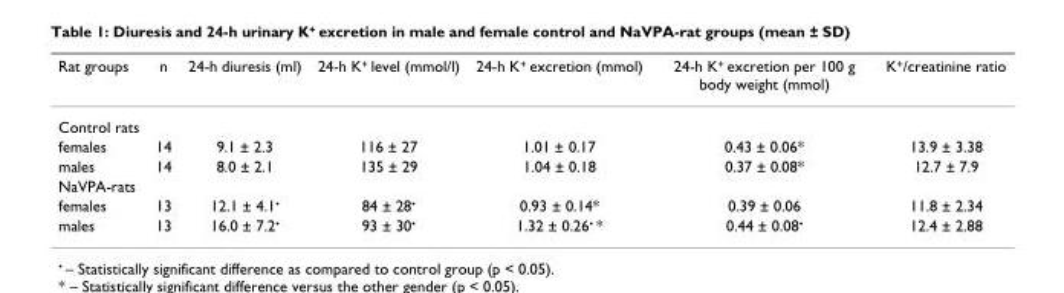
<table><thead><tr><td>Rat groups</td><td>n</td><td>24-h diuresis (ml)</td><td>24-h K<sup>+</sup> level (mmol/l)</td><td>24-h K<sup>+</sup> excretion (mmol)</td><td>24-h K<sup>+</sup> excretion per 100 g body weight (mmol)</td><td>K<sup>+</sup>/creatinine ratio</td></tr></thead><tbody><tr><td colspan="7">Control rats</td></tr><tr><td>females</td><td>14</td><td>9.1 ± 2.3</td><td>116 ± 27</td><td>1.01 ± 0.17</td><td>0.43 ± 0.06*</td><td>13.9 ± 3.38</td></tr><tr><td>males</td><td>14</td><td>8.0 ± 2.1</td><td>135 ± 29</td><td>1.04 ± 0.18</td><td>0.37 ± 0.08*</td><td>12.7 ± 7.9</td></tr><tr><td colspan="7">NaVPA-rats</td></tr><tr><td>females</td><td>13</td><td>12.1 ± 4.1<sup>•</sup></td><td>84 ± 28<sup>•</sup></td><td>0.93 ± 0.14*</td><td>0.39 ± 0.06</td><td>11.8 ± 2.34</td></tr><tr><td>males</td><td>13</td><td>16.0 ± 7.2<sup>•</sup></td><td>93 ± 30<sup>•</sup></td><td>1.32 ± 0.26<sup>•</sup> *</td><td>0.44 ± 0.08<sup>•</sup></td><td>12.4 ± 2.88</td></tr></tbody></table>